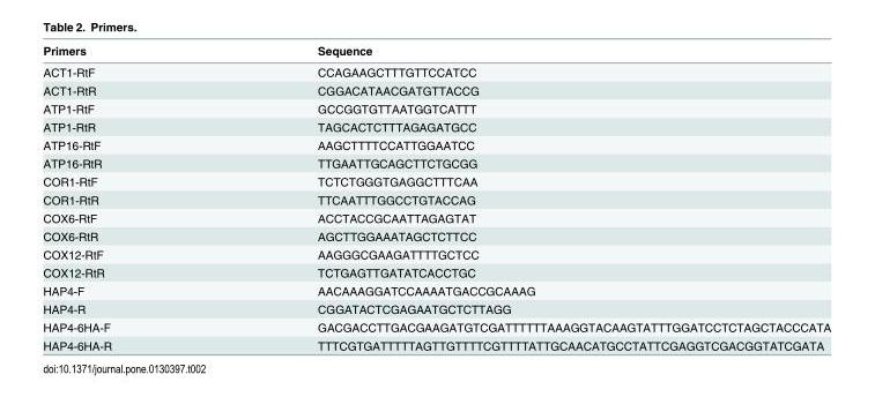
<table><thead><tr><td>Primers</td><td>Sequence</td></tr></thead><tbody><tr><td>ACT1-RtF</td><td>CCAGAAGCTTTGTTCCATCC</td></tr><tr><td>ACT1-RtR</td><td>CGGACATAACGATGTTACCG</td></tr><tr><td>ATP1-RtF</td><td>GCCGGTGTTAATGGTCATTT</td></tr><tr><td>ATP1-RtR</td><td>TAGCACTCTTTAGAGATGCC</td></tr><tr><td>ATP16-RtF</td><td>AAGCTTTTCCATTGGAATCC</td></tr><tr><td>ATP16-RtR</td><td>TTGAATTGCAGCTTCTGCGG</td></tr><tr><td>COR1-RtF</td><td>TCTCTGGGTGAGGCTTTCAA</td></tr><tr><td>COR1-RtR</td><td>TTCAATTTGGCCTGTACCAG</td></tr><tr><td>COX6-RtF</td><td>ACCTACCGCAATTAGAGTAT</td></tr><tr><td>COX6-RtR</td><td>AGCTTGGAAATAGCTCTTCC</td></tr><tr><td>COX12-RtF</td><td>AAGGGCGAAGATTTTGCTCC</td></tr><tr><td>COX12-RtR</td><td>TCTGAGTTGATATCACCTGC</td></tr><tr><td>HAP4-F</td><td>AACAAAGGATCCAAAATGACCGCAAAG</td></tr><tr><td>HAP4-R</td><td>CGGATACTCGAGAATGCTCTTAGG</td></tr><tr><td>HAP4-6HA-F</td><td>GACGACCTTGACGAAGATGTCGATTTTTTAAAGGTACAAGTATTTGGATCCTCTAGCTACCCATA</td></tr><tr><td>HAP4-6HA-R</td><td>TTTCGTGATTTTTAGTTGTTTTCGTTTTATTGCAACATGCCTATTCGAGGTCGACGGTATCGATA</td></tr></tbody></table>